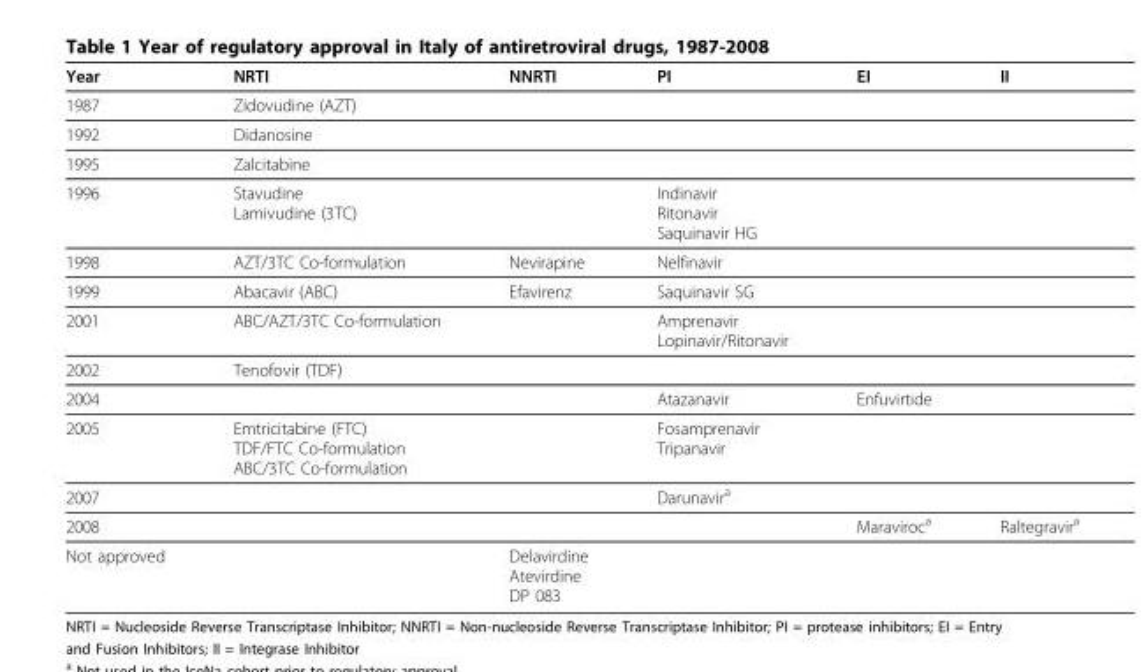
<table><thead><tr><td>Year</td><td>NRTI</td><td>NNRTI</td><td>PI</td><td>EI</td><td>II</td></tr></thead><tbody><tr><td>1987</td><td>Zidovudine (AZT)</td><td></td><td></td><td></td><td></td></tr><tr><td>1992</td><td>Didanosine</td><td></td><td></td><td></td><td></td></tr><tr><td>1995</td><td>Zalcitabine</td><td></td><td></td><td></td><td></td></tr><tr><td>1996</td><td>Stavudine Lamivudine (3TC)</td><td></td><td>Indinavir Ritonavir Saquinavir HG</td><td></td><td></td></tr><tr><td>1998</td><td>AZT/3TC Co-formulation</td><td>Nevirapine</td><td>Nelfinavir</td><td></td><td></td></tr><tr><td>1999</td><td>Abacavir (ABC)</td><td>Efavirenz</td><td>Saquinavir SG</td><td></td><td></td></tr><tr><td>2001</td><td>ABC/AZT/3TC Co-formulation</td><td></td><td>Amprenavir Lopinavir/Ritonavir</td><td></td><td></td></tr><tr><td>2002</td><td>Tenofovir (TDF)</td><td></td><td></td><td></td><td></td></tr><tr><td>2004</td><td></td><td></td><td>Atazanavir</td><td>Enfuvirtide</td><td></td></tr><tr><td>2005</td><td>Emtricitabine (FTC) TDF/FTC Co-formulation ABC/3TC Co-formulation</td><td></td><td>Fosamprenavir Tripanavir</td><td></td><td></td></tr><tr><td>2007</td><td></td><td></td><td>Darunavir<sup>a</sup></td><td></td><td></td></tr><tr><td>2008</td><td></td><td></td><td></td><td>Maraviroc<sup>a</sup></td><td>Raltegravir<sup>a</sup></td></tr><tr><td>Not approved</td><td></td><td>Delavirdine Atevirdine DP 083</td><td></td><td></td><td></td></tr></tbody></table>